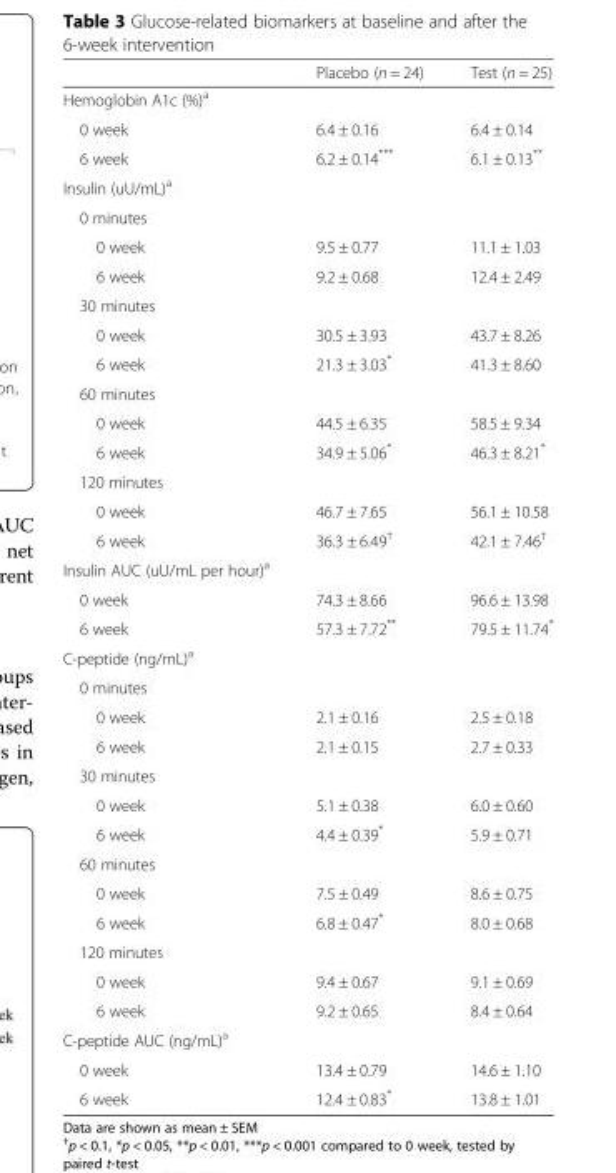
<table><thead><tr><td></td><td>Placebo (n = 24)</td><td>Test (n = 25)</td></tr></thead><tbody><tr><td colspan="3">Hemoglobin A1c (%)<sup>a</sup></td></tr><tr><td>0 week</td><td>6.4 ± 0.16</td><td>6.4 ± 0.14</td></tr><tr><td>6 week</td><td>6.2 ± 0.14***</td><td>6.1 ± 0.13**</td></tr><tr><td colspan="3">Insulin (uU/mL)<sup>a</sup></td></tr><tr><td colspan="3">0 minutes</td></tr><tr><td>0 week</td><td>9.5 ± 0.77</td><td>11.1 ± 1.03</td></tr><tr><td>6 week</td><td>9.2 ± 0.68</td><td>12.4 ± 2.49</td></tr><tr><td colspan="3">30 minutes</td></tr><tr><td>0 week</td><td>30.5 ± 3.93</td><td>43.7 ± 8.26</td></tr><tr><td>6 week</td><td>21.3 ± 3.03*</td><td>41.3 ± 8.60</td></tr><tr><td colspan="3">60 minutes</td></tr><tr><td>0 week</td><td>44.5 ± 6.35</td><td>58.5 ± 9.34</td></tr><tr><td>6 week</td><td>34.9 ± 5.06*</td><td>46.3 ± 8.21*</td></tr><tr><td colspan="3">120 minutes</td></tr><tr><td>0 week</td><td>46.7 ± 7.65</td><td>56.1 ± 10.58</td></tr><tr><td>6 week</td><td>36.3 ± 6.49<sup>†</sup></td><td>42.1 ± 7.46<sup>†</sup></td></tr><tr><td colspan="3">Insulin AUC (uU/mL per hour)<sup>a</sup></td></tr><tr><td>0 week</td><td>74.3 ± 8.66</td><td>96.6 ± 13.98</td></tr><tr><td>6 week</td><td>57.3 ± 7.72**</td><td>79.5 ± 11.74*</td></tr><tr><td colspan="3">C-peptide (ng/mL)<sup>a</sup></td></tr><tr><td colspan="3">0 minutes</td></tr><tr><td>0 week</td><td>2.1 ± 0.16</td><td>2.5 ± 0.18</td></tr><tr><td>6 week</td><td>2.1 ± 0.15</td><td>2.7 ± 0.33</td></tr><tr><td colspan="3">30 minutes</td></tr><tr><td>0 week</td><td>5.1 ± 0.38</td><td>6.0 ± 0.60</td></tr><tr><td>6 week</td><td>4.4 ± 0.39*</td><td>5.9 ± 0.71</td></tr><tr><td colspan="3">60 minutes</td></tr><tr><td>0 week</td><td>7.5 ± 0.49</td><td>8.6 ± 0.75</td></tr><tr><td>6 week</td><td>6.8 ± 0.47*</td><td>8.0 ± 0.68</td></tr><tr><td colspan="3">120 minutes</td></tr><tr><td>0 week</td><td>9.4 ± 0.67</td><td>9.1 ± 0.69</td></tr><tr><td>6 week</td><td>9.2 ± 0.65</td><td>8.4 ± 0.64</td></tr><tr><td colspan="3">C-peptide AUC (ng/mL)<sup>a</sup></td></tr><tr><td>0 week</td><td>13.4 ± 0.79</td><td>14.6 ± 1.10</td></tr><tr><td>6 week</td><td>12.4 ± 0.83*</td><td>13.8 ± 1.01</td></tr></tbody></table>